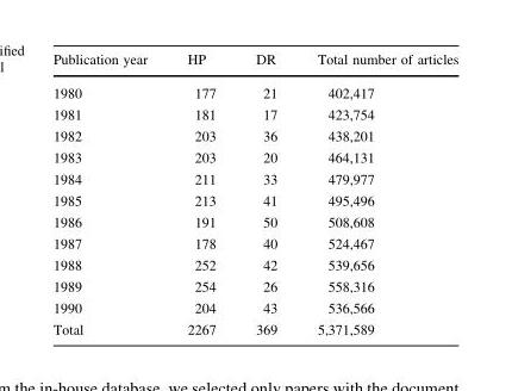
<table><thead><tr><td>Publication year</td><td>HP</td><td>DR</td><td>Total number of articles</td></tr></thead><tbody><tr><td>1980</td><td>177</td><td>21</td><td>402,417</td></tr><tr><td>1981</td><td>181</td><td>17</td><td>423,754</td></tr><tr><td>1982</td><td>203</td><td>36</td><td>438,201</td></tr><tr><td>1983</td><td>203</td><td>20</td><td>464,131</td></tr><tr><td>1984</td><td>211</td><td>33</td><td>479,977</td></tr><tr><td>1985</td><td>213</td><td>41</td><td>495,496</td></tr><tr><td>1986</td><td>191</td><td>50</td><td>508,608</td></tr><tr><td>1987</td><td>178</td><td>40</td><td>524,467</td></tr><tr><td>1988</td><td>252</td><td>42</td><td>539,656</td></tr><tr><td>1989</td><td>254</td><td>26</td><td>558,316</td></tr><tr><td>1990</td><td>204</td><td>43</td><td>536,566</td></tr><tr><td>Total</td><td>2267</td><td>369</td><td>5,371,589</td></tr></tbody></table>